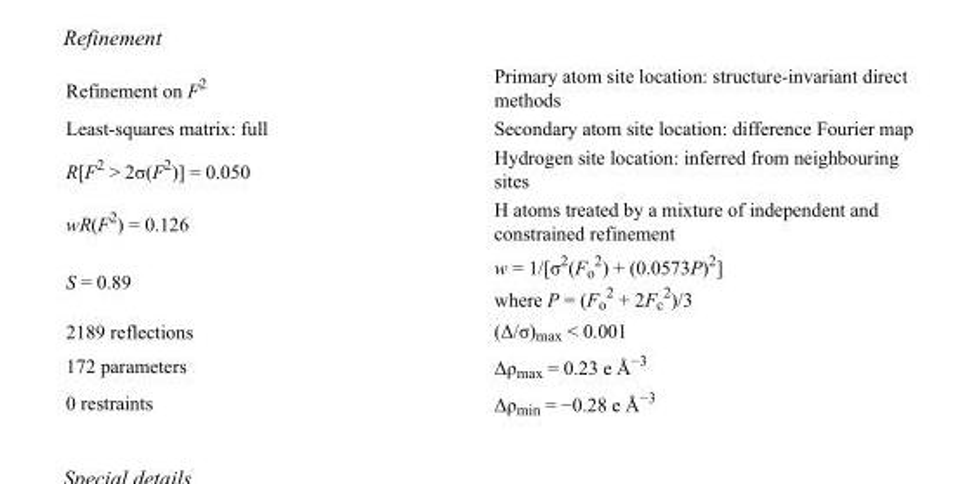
<table><tbody><tr><td>Refinement on F<sup>2</sup></td><td>Primary atom site location: structure-invariant direct methods</td></tr><tr><td>Least-squares matrix: full</td><td>Secondary atom site location: difference Fourier map</td></tr><tr><td>R[F<sup>2</sup> &gt; 2σ(F<sup>2</sup>)] = 0.050</td><td>Hydrogen site location: inferred from neighbouring sites</td></tr><tr><td>wR(F<sup>2</sup>) = 0.126</td><td>H atoms treated by a mixture of independent and constrained refinement</td></tr><tr><td>S = 0.89</td><td>w = 1/[σ<sup>2</sup>(F<sub>o</sub> <sup>2</sup>) + (0.0573P)<sup>2</sup>] where P = (F<sub>o</sub> <sup>2</sup> + 2F<sub>c</sub> <sup>2</sup>)/3</td></tr><tr><td>2189 reflections</td><td>(Δ/σ)<sub>max</sub> &lt; 0.001</td></tr><tr><td>172 parameters</td><td>Δρ<sub>max</sub> = 0.23 e Å<sup>−3</sup></td></tr><tr><td>0 restraints</td><td>Δρmin = −0.28 e Å−3</td></tr></tbody></table>